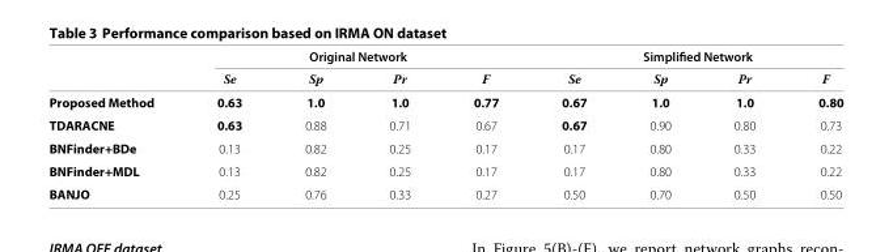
<table><thead><tr><td rowspan="2"></td><td colspan="4">Original Network</td><td colspan="4">Simplified Network</td></tr><tr><td>Se</td><td>Sp</td><td>Pr</td><td>F</td><td>Se</td><td>Sp</td><td>Pr</td><td>F</td></tr></thead><tbody><tr><td>Proposed Method</td><td>0.63</td><td>1.0</td><td>1.0</td><td>0.77</td><td>0.67</td><td>1.0</td><td>1.0</td><td>0.80</td></tr><tr><td>TDARACNE</td><td>0.63</td><td>0.88</td><td>0.71</td><td>0.67</td><td>0.67</td><td>0.90</td><td>0.80</td><td>0.73</td></tr><tr><td>BNFinder+BDe</td><td>0.13</td><td>0.82</td><td>0.25</td><td>0.17</td><td>0.17</td><td>0.80</td><td>0.33</td><td>0.22</td></tr><tr><td>BNFinder+MDL</td><td>0.13</td><td>0.82</td><td>0.25</td><td>0.17</td><td>0.17</td><td>0.80</td><td>0.33</td><td>0.22</td></tr><tr><td>BANJO</td><td>0.25</td><td>0.76</td><td>0.33</td><td>0.27</td><td>0.50</td><td>0.70</td><td>0.50</td><td>0.50</td></tr></tbody></table>